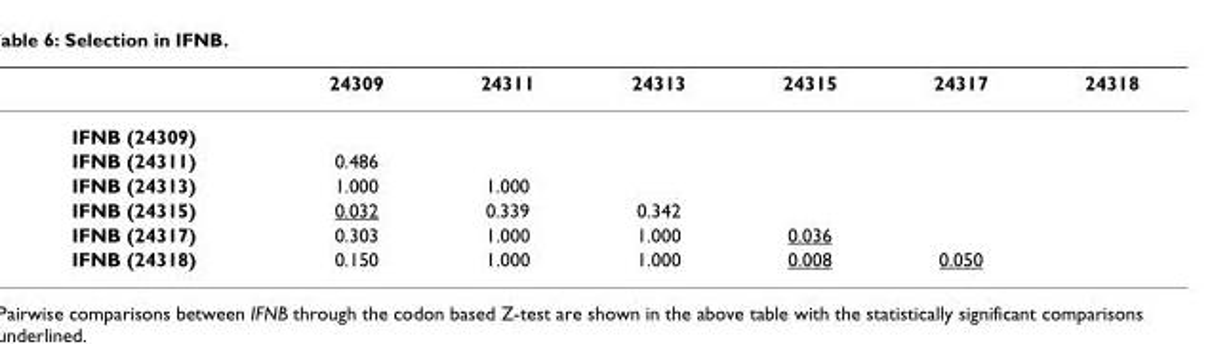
<table><thead><tr><td></td><td>24309</td><td>24311</td><td>24313</td><td>24315</td><td>24317</td><td>24318</td></tr></thead><tbody><tr><td colspan="7">IFNB (24309)</td></tr><tr><td>IFNB (24311)</td><td>0.486</td><td></td><td></td><td></td><td></td><td></td></tr><tr><td>IFNB (24313)</td><td>1.000</td><td>1.000</td><td></td><td></td><td></td><td></td></tr><tr><td>IFNB (24315)</td><td>0.032</td><td>0.339</td><td>0.342</td><td></td><td></td><td></td></tr><tr><td>IFNB (24317)</td><td>0.303</td><td>1.000</td><td>1.000</td><td>0.036</td><td></td><td></td></tr><tr><td>IFNB (24318)</td><td>0.150</td><td>1.000</td><td>1.000</td><td>0.008</td><td>0.050</td><td></td></tr></tbody></table>